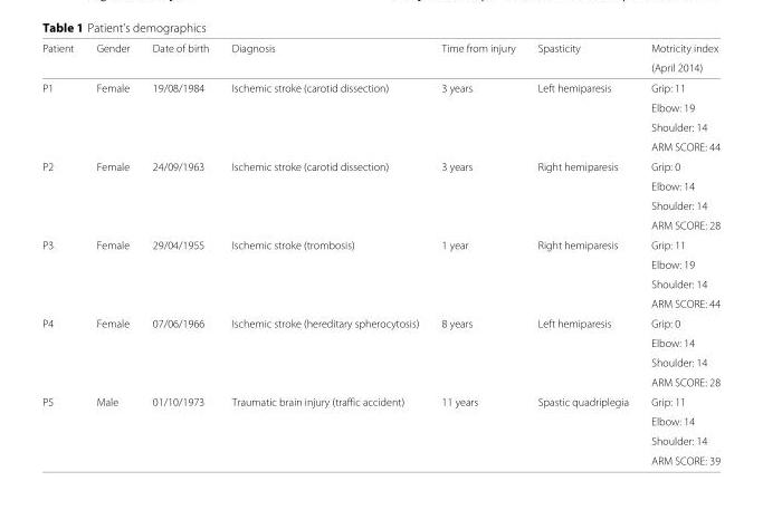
<table><thead><tr><td rowspan="2">Patient</td><td rowspan="2">Gender</td><td rowspan="2">Date of birth</td><td rowspan="2">Diagnosis</td><td rowspan="2">Time from injury</td><td rowspan="2">Spasticity</td><td rowspan="2">Motricity index (April 2014)</td></tr><tr></tr></thead><tbody><tr><td rowspan="4">P1</td><td>Female</td><td>19/08/1984</td><td>Ischemic stroke (carotid dissection)</td><td>3 years</td><td>Left hemiparesis</td><td>Grip: 11</td></tr><tr><td></td><td></td><td></td><td></td><td></td><td>Elbow: 19</td></tr><tr><td></td><td></td><td></td><td></td><td></td><td>Shoulder: 14</td></tr><tr><td></td><td></td><td></td><td></td><td></td><td>ARM SCORE: 44</td></tr><tr><td rowspan="4">P2</td><td>Female</td><td>24/09/1963</td><td>Ischemic stroke (carotid dissection)</td><td>3 years</td><td>Right hemiparesis</td><td>Grip: 0</td></tr><tr><td></td><td></td><td></td><td></td><td></td><td>Elbow: 14</td></tr><tr><td></td><td></td><td></td><td></td><td></td><td>Shoulder: 14</td></tr><tr><td></td><td></td><td></td><td></td><td></td><td>ARM SCORE: 28</td></tr><tr><td rowspan="4">P3</td><td>Female</td><td>29/04/1955</td><td>Ischemic stroke (trombosis)</td><td>1 year</td><td>Right hemiparesis</td><td>Grip: 11</td></tr><tr><td></td><td></td><td></td><td></td><td></td><td>Elbow: 19</td></tr><tr><td></td><td></td><td></td><td></td><td></td><td>Shoulder: 14</td></tr><tr><td></td><td></td><td></td><td></td><td></td><td>ARM SCORE: 44</td></tr><tr><td rowspan="4">P4</td><td>Female</td><td>07/06/1966</td><td>Ischemic stroke (hereditary spherocytosis)</td><td>8 years</td><td>Left hemiparesis</td><td>Grip: 0</td></tr><tr><td></td><td></td><td></td><td></td><td></td><td>Elbow: 14</td></tr><tr><td></td><td></td><td></td><td></td><td></td><td>Shoulder: 14</td></tr><tr><td></td><td></td><td></td><td></td><td></td><td>ARM SCORE: 28</td></tr><tr><td rowspan="4">P5</td><td>Male</td><td>01/10/1973</td><td>Traumatic brain injury (traffic accident)</td><td>11 years</td><td>Spastic quadriplegia</td><td>Grip: 11</td></tr><tr><td></td><td></td><td></td><td></td><td></td><td>Elbow: 14</td></tr><tr><td></td><td></td><td></td><td></td><td></td><td>Shoulder: 14</td></tr><tr><td></td><td></td><td></td><td></td><td></td><td>ARM SCORE: 39</td></tr></tbody></table>